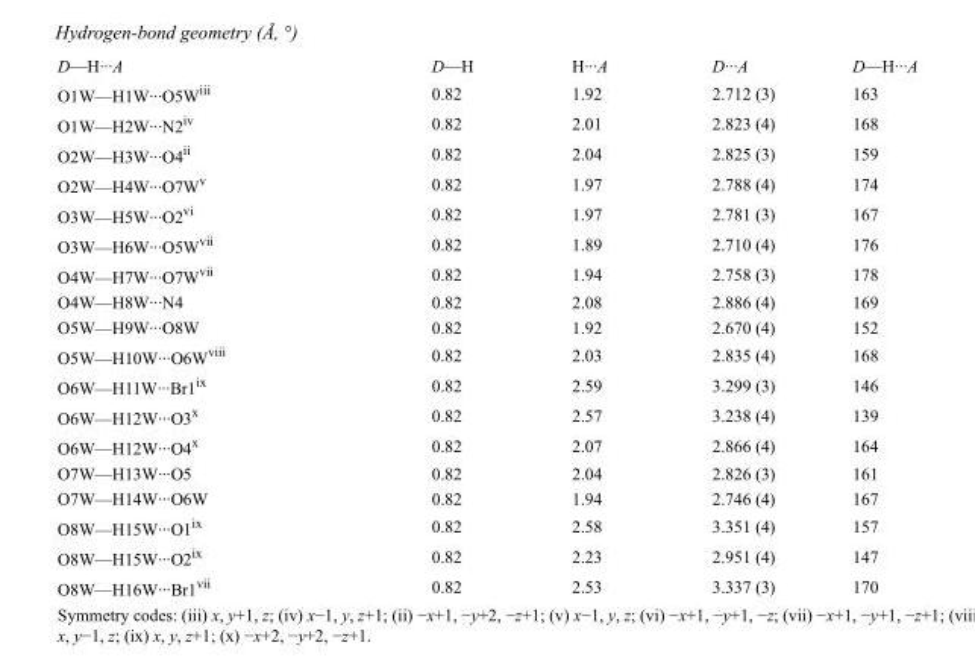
<table><tbody><tr><td>D—H···A</td><td>D—H</td><td>H···A</td><td>D···A</td><td>D—H···A</td></tr><tr><td>O1W—H1W···O5W<sup>iii</sup></td><td>0.82</td><td>1.92</td><td>2.712 (3)</td><td>163</td></tr><tr><td>O1W—H2W···N2<sup>iv</sup></td><td>0.82</td><td>2.01</td><td>2.823 (4)</td><td>168</td></tr><tr><td>O2W—H3W···O4<sup>ii</sup></td><td>0.82</td><td>2.04</td><td>2.825 (3)</td><td>159</td></tr><tr><td>O2W—H4W···O7W<sup>v</sup></td><td>0.82</td><td>1.97</td><td>2.788 (4)</td><td>174</td></tr><tr><td>O3W—H5W···O2<sup>vi</sup></td><td>0.82</td><td>1.97</td><td>2.781 (3)</td><td>167</td></tr><tr><td>O3W—H6W···O5W<sup>vii</sup></td><td>0.82</td><td>1.89</td><td>2.710 (4)</td><td>176</td></tr><tr><td>O4W—H7W···O7W<sup>vii</sup></td><td>0.82</td><td>1.94</td><td>2.758 (3)</td><td>178</td></tr><tr><td>O4W—H8W···N4</td><td>0.82</td><td>2.08</td><td>2.886 (4)</td><td>169</td></tr><tr><td>O5W—H9W···O8W</td><td>0.82</td><td>1.92</td><td>2.670 (4)</td><td>152</td></tr><tr><td>O5W—H10W···O6W<sup>viii</sup></td><td>0.82</td><td>2.03</td><td>2.835 (4)</td><td>168</td></tr><tr><td>O6W—H11W···Br1<sup>ix</sup></td><td>0.82</td><td>2.59</td><td>3.299 (3)</td><td>146</td></tr><tr><td>O6W—H12W···O3<sup>x</sup></td><td>0.82</td><td>2.57</td><td>3.238 (4)</td><td>139</td></tr><tr><td>O6W—H12W···O4<sup>x</sup></td><td>0.82</td><td>2.07</td><td>2.866 (4)</td><td>164</td></tr><tr><td>O7W—H13W···O5</td><td>0.82</td><td>2.04</td><td>2.826 (3)</td><td>161</td></tr><tr><td>O7W—H14W···O6W</td><td>0.82</td><td>1.94</td><td>2.746 (4)</td><td>167</td></tr><tr><td>O8W—H15W···O1<sup>ix</sup></td><td>0.82</td><td>2.58</td><td>3.351 (4)</td><td>157</td></tr><tr><td>O8W—H15W···O2<sup>ix</sup></td><td>0.82</td><td>2.23</td><td>2.951 (4)</td><td>147</td></tr><tr><td>O8W—H16W···Br1<sup>vii</sup></td><td>0.82</td><td>2.53</td><td>3.337 (3)</td><td>170</td></tr></tbody></table>